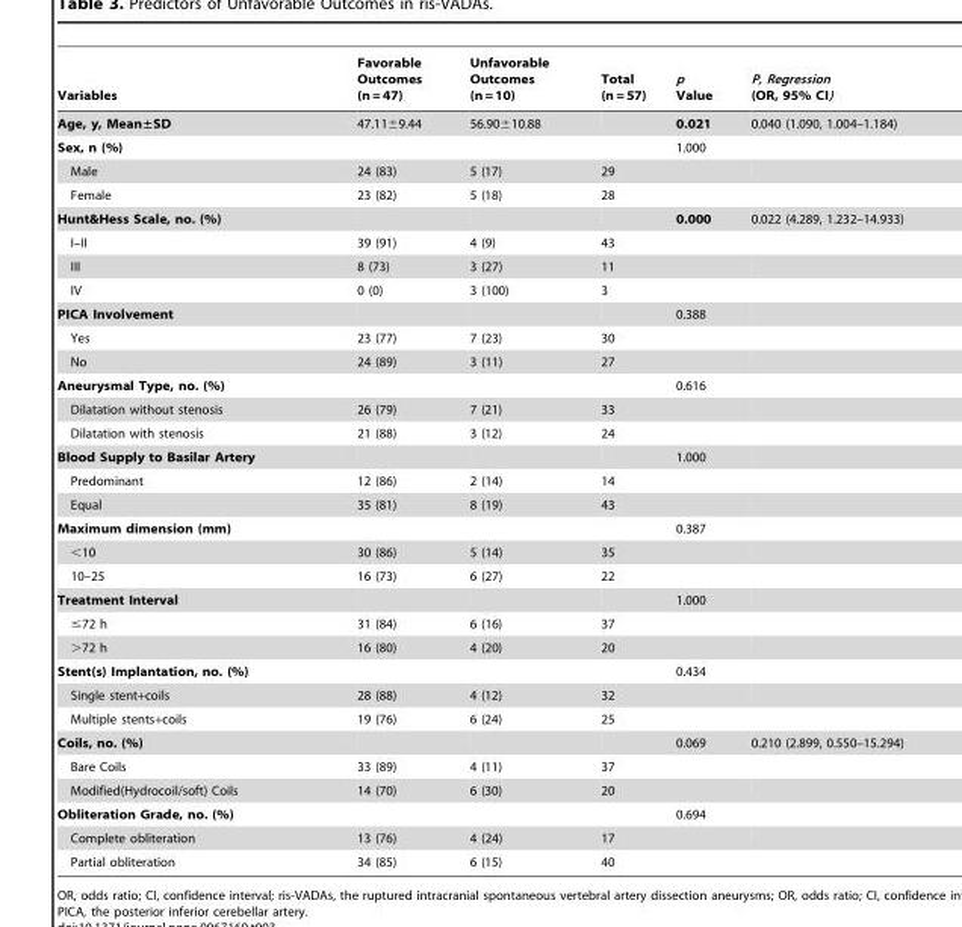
<table><thead><tr><td>Variables</td><td>Favorable Outcomes (n = 47)</td><td>Unfavorable Outcomes (n = 10)</td><td>Total (n = 57)</td><td>p Value</td><td>P, Regression (OR, 95% CI)</td></tr></thead><tbody><tr><td>Age, y, Mean±SD</td><td>47.11±9.44</td><td>56.90±10.88</td><td></td><td>0.021</td><td>0.040 (1.090, 1.004–1.184)</td></tr><tr><td>Sex, n (%)</td><td></td><td></td><td></td><td>1.000</td><td></td></tr><tr><td>Male</td><td>24 (83)</td><td>5 (17)</td><td>29</td><td></td><td></td></tr><tr><td>Female</td><td>23 (82)</td><td>5 (18)</td><td>28</td><td></td><td></td></tr><tr><td>Hunt&amp;Hess Scale, no. (%)</td><td></td><td></td><td></td><td>0.000</td><td>0.022 (4.289, 1.232–14.933)</td></tr><tr><td>I–II</td><td>39 (91)</td><td>4 (9)</td><td>43</td><td></td><td></td></tr><tr><td>III</td><td>8 (73)</td><td>3 (27)</td><td>11</td><td></td><td></td></tr><tr><td>IV</td><td>0 (0)</td><td>3 (100)</td><td>3</td><td></td><td></td></tr><tr><td>PICA Involvement</td><td></td><td></td><td></td><td>0.388</td><td></td></tr><tr><td>Yes</td><td>23 (77)</td><td>7 (23)</td><td>30</td><td></td><td></td></tr><tr><td>No</td><td>24 (89)</td><td>3 (11)</td><td>27</td><td></td><td></td></tr><tr><td>Aneurysmal Type, no. (%)</td><td></td><td></td><td></td><td>0.616</td><td></td></tr><tr><td>Dilatation without stenosis</td><td>26 (79)</td><td>7 (21)</td><td>33</td><td></td><td></td></tr><tr><td>Dilatation with stenosis</td><td>21 (88)</td><td>3 (12)</td><td>24</td><td></td><td></td></tr><tr><td>Blood Supply to Basilar Artery</td><td></td><td></td><td></td><td>1.000</td><td></td></tr><tr><td>Predominant</td><td>12 (86)</td><td>2 (14)</td><td>14</td><td></td><td></td></tr><tr><td>Equal</td><td>35 (81)</td><td>8 (19)</td><td>43</td><td></td><td></td></tr><tr><td>Maximum dimension (mm)</td><td></td><td></td><td></td><td>0.387</td><td></td></tr><tr><td>&lt;10</td><td>30 (86)</td><td>5 (14)</td><td>35</td><td></td><td></td></tr><tr><td>10–25</td><td>16 (73)</td><td>6 (27)</td><td>22</td><td></td><td></td></tr><tr><td>Treatment Interval</td><td></td><td></td><td></td><td>1.000</td><td></td></tr><tr><td>≤72 h</td><td>31 (84)</td><td>6 (16)</td><td>37</td><td></td><td></td></tr><tr><td>&gt;72 h</td><td>16 (80)</td><td>4 (20)</td><td>20</td><td></td><td></td></tr><tr><td>Stent(s) Implantation, no. (%)</td><td></td><td></td><td></td><td>0.434</td><td></td></tr><tr><td>Single stent+coils</td><td>28 (88)</td><td>4 (12)</td><td>32</td><td></td><td></td></tr><tr><td>Multiple stents+coils</td><td>19 (76)</td><td>6 (24)</td><td>25</td><td></td><td></td></tr><tr><td>Coils, no. (%)</td><td></td><td></td><td></td><td>0.069</td><td>0.210 (2.899, 0.550–15.294)</td></tr><tr><td>Bare Coils</td><td>33 (89)</td><td>4 (11)</td><td>37</td><td></td><td></td></tr><tr><td>Modified(Hydrocoil/soft) Coils</td><td>14 (70)</td><td>6 (30)</td><td>20</td><td></td><td></td></tr><tr><td>Obliteration Grade, no. (%)</td><td></td><td></td><td></td><td>0.694</td><td></td></tr><tr><td>Complete obliteration</td><td>13 (76)</td><td>4 (24)</td><td>17</td><td></td><td></td></tr><tr><td>Partial obliteration</td><td>34 (85)</td><td>6 (15)</td><td>40</td><td></td><td></td></tr></tbody></table>